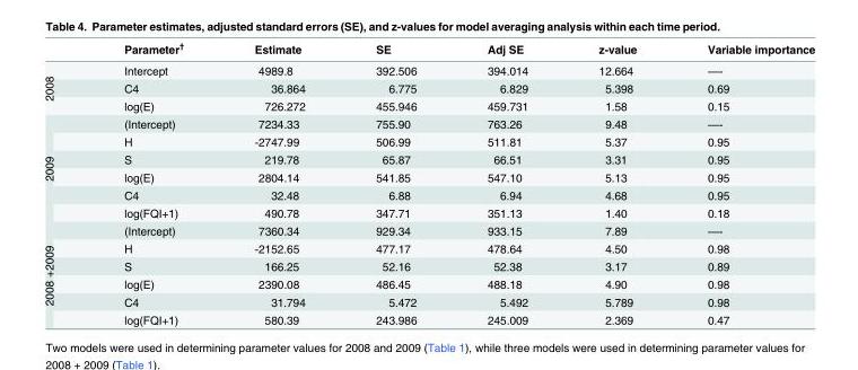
<table><thead><tr><td></td><td>Parameter<sup>†</sup></td><td>Estimate</td><td>SE</td><td>Adj SE</td><td>z-value</td><td>Variable importance</td></tr></thead><tbody><tr><td rowspan="3">2008</td><td>Intercept</td><td>4989.8</td><td>392.506</td><td>394.014</td><td>12.664</td><td>—-</td></tr><tr><td>C4</td><td>36.864</td><td>6.775</td><td>6.829</td><td>5.398</td><td>0.69</td></tr><tr><td>log(E)</td><td>726.272</td><td>455.946</td><td>459.731</td><td>1.58</td><td>0.15</td></tr><tr><td rowspan="6">2009</td><td>(Intercept)</td><td>7234.33</td><td>755.90</td><td>763.26</td><td>9.48</td><td>—-</td></tr><tr><td>H</td><td>-2747.99</td><td>506.99</td><td>511.81</td><td>5.37</td><td>0.95</td></tr><tr><td>S</td><td>219.78</td><td>65.87</td><td>66.51</td><td>3.31</td><td>0.95</td></tr><tr><td>log(E)</td><td>2804.14</td><td>541.85</td><td>547.10</td><td>5.13</td><td>0.95</td></tr><tr><td>C4</td><td>32.48</td><td>6.88</td><td>6.94</td><td>4.68</td><td>0.95</td></tr><tr><td>log(FQI+1)</td><td>490.78</td><td>347.71</td><td>351.13</td><td>1.40</td><td>0.18</td></tr><tr><td rowspan="6">2008 +2009</td><td>(Intercept)</td><td>7360.34</td><td>929.34</td><td>933.15</td><td>7.89</td><td>—-</td></tr><tr><td>H</td><td>-2152.65</td><td>477.17</td><td>478.64</td><td>4.50</td><td>0.98</td></tr><tr><td>S</td><td>166.25</td><td>52.16</td><td>52.38</td><td>3.17</td><td>0.89</td></tr><tr><td>log(E)</td><td>2390.08</td><td>486.45</td><td>488.18</td><td>4.90</td><td>0.98</td></tr><tr><td>C4</td><td>31.794</td><td>5.472</td><td>5.492</td><td>5.789</td><td>0.98</td></tr><tr><td>log(FQI+1)</td><td>580.39</td><td>243.986</td><td>245.009</td><td>2.369</td><td>0.47</td></tr></tbody></table>